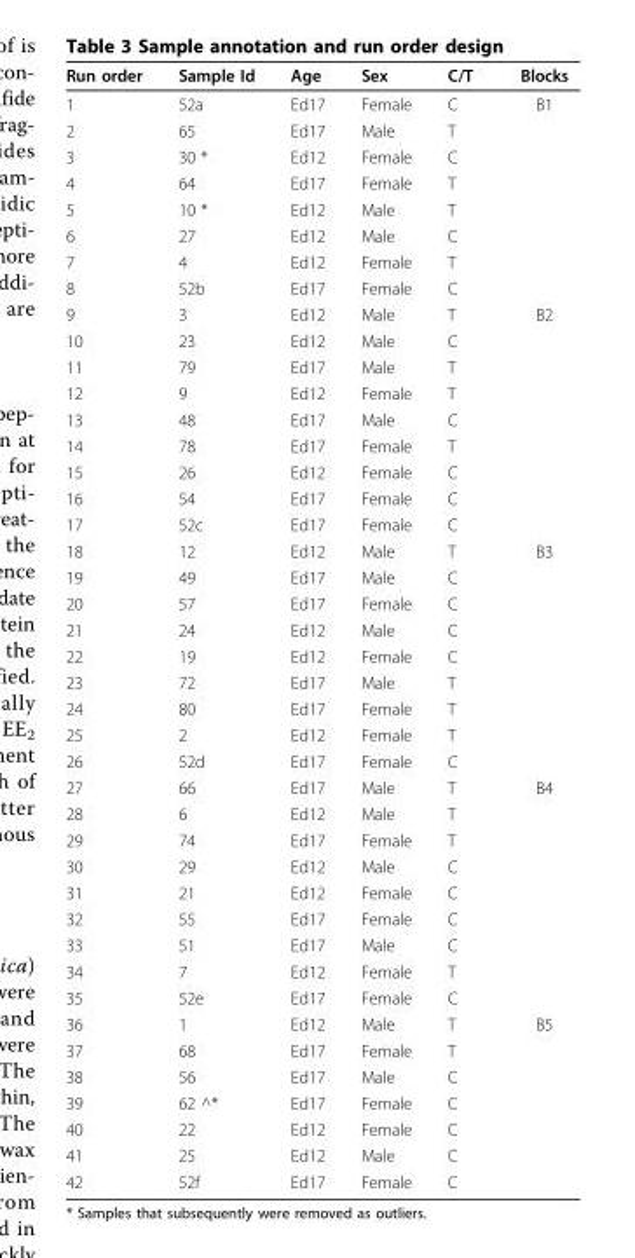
<table><thead><tr><td>Run order</td><td>Sample Id</td><td>Age</td><td>Sex</td><td>C/T</td><td>Blocks</td></tr></thead><tbody><tr><td>1</td><td>52a</td><td>Ed17</td><td>Female</td><td>C</td><td>B1</td></tr><tr><td>2</td><td>65</td><td>Ed17</td><td>Male</td><td>T</td><td></td></tr><tr><td>3</td><td>30 *</td><td>Ed12</td><td>Female</td><td>C</td><td></td></tr><tr><td>4</td><td>64</td><td>Ed17</td><td>Female</td><td>T</td><td></td></tr><tr><td>5</td><td>10 *</td><td>Ed12</td><td>Male</td><td>T</td><td></td></tr><tr><td>6</td><td>27</td><td>Ed12</td><td>Male</td><td>C</td><td></td></tr><tr><td>7</td><td>4</td><td>Ed12</td><td>Female</td><td>T</td><td></td></tr><tr><td>8</td><td>52b</td><td>Ed17</td><td>Female</td><td>C</td><td></td></tr><tr><td>9</td><td>3</td><td>Ed12</td><td>Male</td><td>T</td><td>B2</td></tr><tr><td>10</td><td>23</td><td>Ed12</td><td>Male</td><td>C</td><td></td></tr><tr><td>11</td><td>79</td><td>Ed17</td><td>Male</td><td>T</td><td></td></tr><tr><td>12</td><td>9</td><td>Ed12</td><td>Female</td><td>T</td><td></td></tr><tr><td>13</td><td>48</td><td>Ed17</td><td>Male</td><td>C</td><td></td></tr><tr><td>14</td><td>78</td><td>Ed17</td><td>Female</td><td>T</td><td></td></tr><tr><td>15</td><td>26</td><td>Ed12</td><td>Female</td><td>C</td><td></td></tr><tr><td>16</td><td>54</td><td>Ed17</td><td>Female</td><td>C</td><td></td></tr><tr><td>17</td><td>52c</td><td>Ed17</td><td>Female</td><td>C</td><td></td></tr><tr><td>18</td><td>12</td><td>Ed12</td><td>Male</td><td>T</td><td>B3</td></tr><tr><td>19</td><td>49</td><td>Ed17</td><td>Male</td><td>C</td><td></td></tr><tr><td>20</td><td>57</td><td>Ed17</td><td>Female</td><td>C</td><td></td></tr><tr><td>21</td><td>24</td><td>Ed12</td><td>Male</td><td>C</td><td></td></tr><tr><td>22</td><td>19</td><td>Ed12</td><td>Female</td><td>C</td><td></td></tr><tr><td>23</td><td>72</td><td>Ed17</td><td>Male</td><td>T</td><td></td></tr><tr><td>24</td><td>80</td><td>Ed17</td><td>Female</td><td>T</td><td></td></tr><tr><td>25</td><td>2</td><td>Ed12</td><td>Female</td><td>T</td><td></td></tr><tr><td>26</td><td>52d</td><td>Ed17</td><td>Female</td><td>C</td><td></td></tr><tr><td>27</td><td>66</td><td>Ed17</td><td>Male</td><td>T</td><td>B4</td></tr><tr><td>28</td><td>6</td><td>Ed12</td><td>Male</td><td>T</td><td></td></tr><tr><td>29</td><td>74</td><td>Ed17</td><td>Female</td><td>T</td><td></td></tr><tr><td>30</td><td>29</td><td>Ed12</td><td>Male</td><td>C</td><td></td></tr><tr><td>31</td><td>21</td><td>Ed12</td><td>Female</td><td>C</td><td></td></tr><tr><td>32</td><td>55</td><td>Ed17</td><td>Female</td><td>C</td><td></td></tr><tr><td>33</td><td>51</td><td>Ed17</td><td>Male</td><td>C</td><td></td></tr><tr><td>34</td><td>7</td><td>Ed12</td><td>Female</td><td>T</td><td></td></tr><tr><td>35</td><td>52e</td><td>Ed17</td><td>Female</td><td>C</td><td></td></tr><tr><td>36</td><td>1</td><td>Ed12</td><td>Male</td><td>T</td><td>B5</td></tr><tr><td>37</td><td>68</td><td>Ed17</td><td>Female</td><td>T</td><td></td></tr><tr><td>38</td><td>56</td><td>Ed17</td><td>Male</td><td>C</td><td></td></tr><tr><td>39</td><td>62 ^*</td><td>Ed17</td><td>Female</td><td>C</td><td></td></tr><tr><td>40</td><td>22</td><td>Ed12</td><td>Female</td><td>C</td><td></td></tr><tr><td>41</td><td>25</td><td>Ed12</td><td>Male</td><td>C</td><td></td></tr><tr><td>42</td><td>52f</td><td>Ed17</td><td>Female</td><td>C</td><td></td></tr></tbody></table>